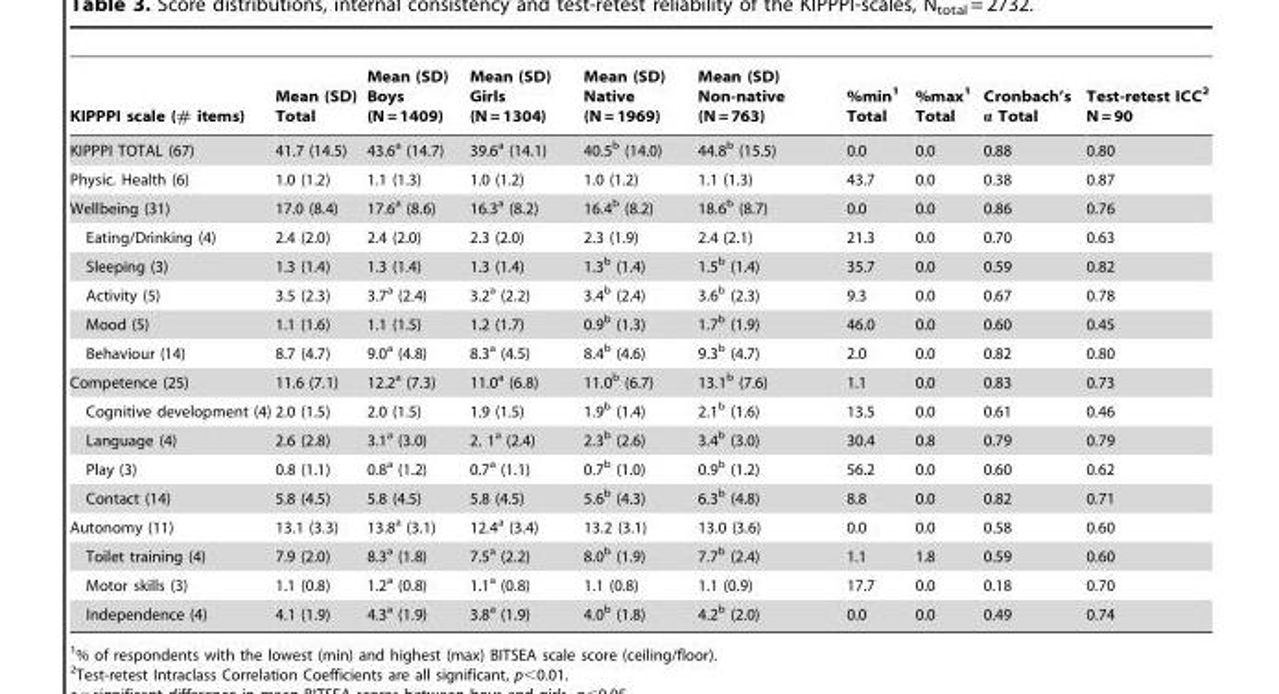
<table><thead><tr><td>KIPPPI scale (# items)</td><td>Mean (SD) Total</td><td>Mean (SD) Boys (N = 1409)</td><td>Mean (SD) Girls (N = 1304)</td><td>Mean (SD) Native (N = 1969)</td><td>Mean (SD) Non-native (N = 763)</td><td>%min<sup>1</sup> Total</td><td>%max<sup>1</sup> Total</td><td>Cronbach’s α Total</td><td>Test-retest ICC<sup>2</sup> N = 90</td></tr></thead><tbody><tr><td>KIPPPI TOTAL (67)</td><td>41.7 (14.5)</td><td>43.6<sup>a</sup> (14.7)</td><td>39.6<sup>a</sup> (14.1)</td><td>40.5<sup>b</sup> (14.0)</td><td>44.8<sup>b</sup> (15.5)</td><td>0.0</td><td>0.0</td><td>0.88</td><td>0.80</td></tr><tr><td>Physic. Health (6)</td><td>1.0 (1.2)</td><td>1.1 (1.3)</td><td>1.0 (1.2)</td><td>1.0 (1.2)</td><td>1.1 (1.3)</td><td>43.7</td><td>0.0</td><td>0.38</td><td>0.87</td></tr><tr><td>Wellbeing (31)</td><td>17.0 (8.4)</td><td>17.6<sup>a</sup> (8.6)</td><td>16.3<sup>a</sup> (8.2)</td><td>16.4<sup>b</sup> (8.2)</td><td>18.6<sup>b</sup> (8.7)</td><td>0.0</td><td>0.0</td><td>0.86</td><td>0.76</td></tr><tr><td>Eating/Drinking (4)</td><td>2.4 (2.0)</td><td>2.4 (2.0)</td><td>2.3 (2.0)</td><td>2.3 (1.9)</td><td>2.4 (2.1)</td><td>21.3</td><td>0.0</td><td>0.70</td><td>0.63</td></tr><tr><td>Sleeping (3)</td><td>1.3 (1.4)</td><td>1.3 (1.4)</td><td>1.3 (1.4)</td><td>1.3<sup>b</sup> (1.4)</td><td>1.5<sup>b</sup> (1.4)</td><td>35.7</td><td>0.0</td><td>0.59</td><td>0.82</td></tr><tr><td>Activity (5)</td><td>3.5 (2.3)</td><td>3.7<sup>a</sup> (2.4)</td><td>3.2<sup>a</sup> (2.2)</td><td>3.4<sup>b</sup> (2.4)</td><td>3.6<sup>b</sup> (2.3)</td><td>9.3</td><td>0.0</td><td>0.67</td><td>0.78</td></tr><tr><td>Mood (5)</td><td>1.1 (1.6)</td><td>1.1 (1.5)</td><td>1.2 (1.7)</td><td>0.9<sup>b</sup> (1.3)</td><td>1.7<sup>b</sup> (1.9)</td><td>46.0</td><td>0.0</td><td>0.60</td><td>0.45</td></tr><tr><td>Behaviour (14)</td><td>8.7 (4.7)</td><td>9.0<sup>a</sup> (4.8)</td><td>8.3<sup>a</sup> (4.5)</td><td>8.4<sup>b</sup> (4.6)</td><td>9.3<sup>b</sup> (4.7)</td><td>2.0</td><td>0.0</td><td>0.82</td><td>0.80</td></tr><tr><td>Competence (25)</td><td>11.6 (7.1)</td><td>12.2<sup>a</sup> (7.3)</td><td>11.0<sup>a</sup> (6.8)</td><td>11.0<sup>b</sup> (6.7)</td><td>13.1<sup>b</sup> (7.6)</td><td>1.1</td><td>0.0</td><td>0.83</td><td>0.73</td></tr><tr><td>Cognitive development (4)</td><td>2.0 (1.5)</td><td>2.0 (1.5)</td><td>1.9 (1.5)</td><td>1.9<sup>b</sup> (1.4)</td><td>2.1<sup>b</sup> (1.6)</td><td>13.5</td><td>0.0</td><td>0.61</td><td>0.46</td></tr><tr><td>Language (4)</td><td>2.6 (2.8)</td><td>3.1<sup>a</sup> (3.0)</td><td>2. 1<sup>a</sup> (2.4)</td><td>2.3<sup>b</sup> (2.6)</td><td>3.4<sup>b</sup> (3.0)</td><td>30.4</td><td>0.8</td><td>0.79</td><td>0.79</td></tr><tr><td>Play (3)</td><td>0.8 (1.1)</td><td>0.8<sup>a</sup> (1.2)</td><td>0.7<sup>a</sup> (1.1)</td><td>0.7<sup>b</sup> (1.0)</td><td>0.9<sup>b</sup> (1.2)</td><td>56.2</td><td>0.0</td><td>0.60</td><td>0.62</td></tr><tr><td>Contact (14)</td><td>5.8 (4.5)</td><td>5.8 (4.5)</td><td>5.8 (4.5)</td><td>5.6<sup>b</sup> (4.3)</td><td>6.3<sup>b</sup> (4.8)</td><td>8.8</td><td>0.0</td><td>0.82</td><td>0.71</td></tr><tr><td>Autonomy (11)</td><td>13.1 (3.3)</td><td>13.8<sup>a</sup> (3.1)</td><td>12.4<sup>a</sup> (3.4)</td><td>13.2 (3.1)</td><td>13.0 (3.6)</td><td>0.0</td><td>0.0</td><td>0.58</td><td>0.60</td></tr><tr><td>Toilet training (4)</td><td>7.9 (2.0)</td><td>8.3<sup>a</sup> (1.8)</td><td>7.5<sup>a</sup> (2.2)</td><td>8.0<sup>b</sup> (1.9)</td><td>7.7<sup>b</sup> (2.4)</td><td>1.1</td><td>1.8</td><td>0.59</td><td>0.60</td></tr><tr><td>Motor skills (3)</td><td>1.1 (0.8)</td><td>1.2<sup>a</sup> (0.8)</td><td>1.1<sup>a</sup> (0.8)</td><td>1.1 (0.8)</td><td>1.1 (0.9)</td><td>17.7</td><td>0.0</td><td>0.18</td><td>0.70</td></tr><tr><td>Independence (4)</td><td>4.1 (1.9)</td><td>4.3<sup>a</sup> (1.9)</td><td>3.8<sup>a</sup> (1.9)</td><td>4.0<sup>b</sup> (1.8)</td><td>4.2<sup>b</sup> (2.0)</td><td>0.0</td><td>0.0</td><td>0.49</td><td>0.74</td></tr></tbody></table>